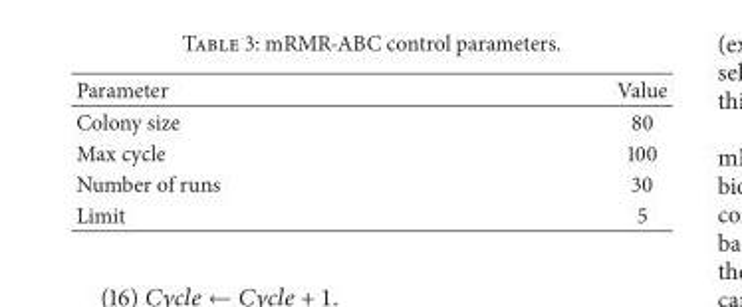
<table><thead><tr><td>Parameter</td><td>Value</td></tr></thead><tbody><tr><td>Colony size</td><td>80</td></tr><tr><td>Max cycle</td><td>100</td></tr><tr><td>Number of runs</td><td>30</td></tr><tr><td>Limit</td><td>5</td></tr></tbody></table>